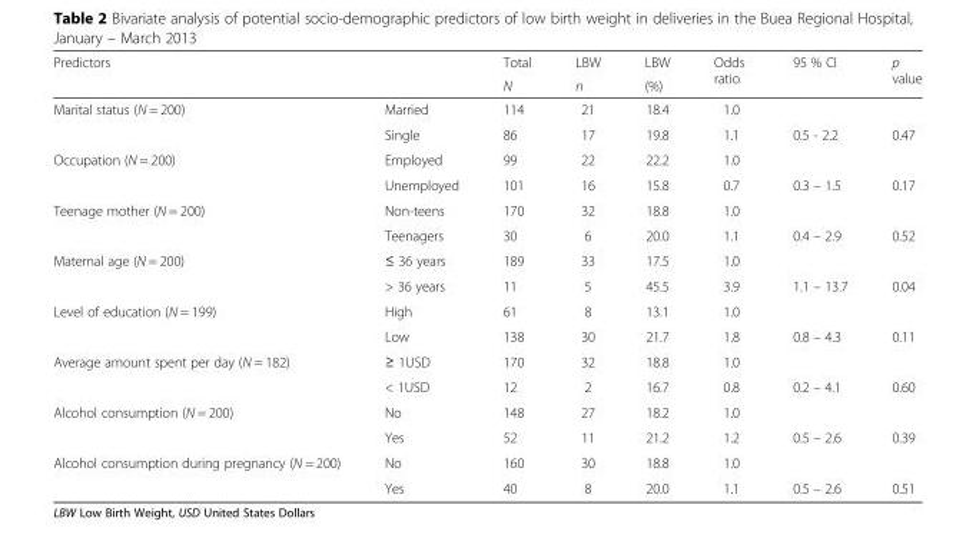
<table><thead><tr><td rowspan="2">Predictors</td><td rowspan="2"></td><td rowspan="2">Total N</td><td rowspan="2">LBW n</td><td rowspan="2">LBW (%)</td><td rowspan="2">Odds ratio</td><td rowspan="2">95 % CI</td><td rowspan="2">p value</td></tr><tr></tr></thead><tbody><tr><td rowspan="2">Marital status (N = 200)</td><td>Married</td><td>114</td><td>21</td><td>18.4</td><td>1.0</td><td></td><td></td></tr><tr><td>Single</td><td>86</td><td>17</td><td>19.8</td><td>1.1</td><td>0.5 - 2.2</td><td>0.47</td></tr><tr><td rowspan="2">Occupation (N = 200)</td><td>Employed</td><td>99</td><td>22</td><td>22.2</td><td>1.0</td><td></td><td></td></tr><tr><td>Unemployed</td><td>101</td><td>16</td><td>15.8</td><td>0.7</td><td>0.3 – 1.5</td><td>0.17</td></tr><tr><td rowspan="2">Teenage mother (N = 200)</td><td>Non-teens</td><td>170</td><td>32</td><td>18.8</td><td>1.0</td><td></td><td></td></tr><tr><td>Teenagers</td><td>30</td><td>6</td><td>20.0</td><td>1.1</td><td>0.4 – 2.9</td><td>0.52</td></tr><tr><td rowspan="2">Maternal age (N = 200)</td><td>≤ 36 years</td><td>189</td><td>33</td><td>17.5</td><td>1.0</td><td></td><td></td></tr><tr><td>&gt; 36 years</td><td>11</td><td>5</td><td>45.5</td><td>3.9</td><td>1.1 – 13.7</td><td>0.04</td></tr><tr><td rowspan="2">Level of education (N = 199)</td><td>High</td><td>61</td><td>8</td><td>13.1</td><td>1.0</td><td></td><td></td></tr><tr><td>Low</td><td>138</td><td>30</td><td>21.7</td><td>1.8</td><td>0.8 – 4.3</td><td>0.11</td></tr><tr><td rowspan="2">Average amount spent per day (N = 182)</td><td>≥ 1USD</td><td>170</td><td>32</td><td>18.8</td><td>1.0</td><td></td><td></td></tr><tr><td>&lt; 1USD</td><td>12</td><td>2</td><td>16.7</td><td>0.8</td><td>0.2 – 4.1</td><td>0.60</td></tr><tr><td rowspan="2">Alcohol consumption (N = 200)</td><td>No</td><td>148</td><td>27</td><td>18.2</td><td>1.0</td><td></td><td></td></tr><tr><td>Yes</td><td>52</td><td>11</td><td>21.2</td><td>1.2</td><td>0.5 – 2.6</td><td>0.39</td></tr><tr><td rowspan="2">Alcohol consumption during pregnancy (N = 200)</td><td>No</td><td>160</td><td>30</td><td>18.8</td><td>1.0</td><td></td><td></td></tr><tr><td>Yes</td><td>40</td><td>8</td><td>20.0</td><td>1.1</td><td>0.5 – 2.6</td><td>0.51</td></tr></tbody></table>